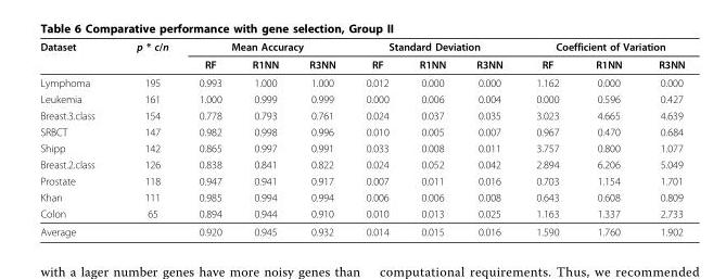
<table><thead><tr><td rowspan="2">Dataset</td><td rowspan="2">p * c/n</td><td colspan="3">Mean Accuracy</td><td colspan="3">Standard Deviation</td><td colspan="3">Coefficient of Variation</td></tr><tr><td>RF</td><td>R1NN</td><td>R3NN</td><td>RF</td><td>R1NN</td><td>R3NN</td><td>RF</td><td>R1NN</td><td>R3NN</td></tr></thead><tbody><tr><td>Lymphoma</td><td>195</td><td>0.993</td><td>1.000</td><td>1.000</td><td>0.012</td><td>0.000</td><td>0.000</td><td>1.162</td><td>0.000</td><td>0.000</td></tr><tr><td>Leukemia</td><td>161</td><td>1.000</td><td>0.999</td><td>0.999</td><td>0.000</td><td>0.006</td><td>0.004</td><td>0.000</td><td>0.596</td><td>0.427</td></tr><tr><td>Breast.3.class</td><td>154</td><td>0.778</td><td>0.793</td><td>0.761</td><td>0.024</td><td>0.037</td><td>0.035</td><td>3.023</td><td>4.665</td><td>4.639</td></tr><tr><td>SRBCT</td><td>147</td><td>0.982</td><td>0.998</td><td>0.996</td><td>0.010</td><td>0.005</td><td>0.007</td><td>0.967</td><td>0.470</td><td>0.684</td></tr><tr><td>Shipp</td><td>142</td><td>0.865</td><td>0.997</td><td>0.991</td><td>0.033</td><td>0.008</td><td>0.011</td><td>3.757</td><td>0.800</td><td>1.077</td></tr><tr><td>Breast.2.class</td><td>126</td><td>0.838</td><td>0.841</td><td>0.822</td><td>0.024</td><td>0.052</td><td>0.042</td><td>2.894</td><td>6.206</td><td>5.049</td></tr><tr><td>Prostate</td><td>118</td><td>0.947</td><td>0.941</td><td>0.917</td><td>0.007</td><td>0.011</td><td>0.016</td><td>0.703</td><td>1.154</td><td>1.701</td></tr><tr><td>Khan</td><td>111</td><td>0.985</td><td>0.994</td><td>0.994</td><td>0.006</td><td>0.006</td><td>0.008</td><td>0.643</td><td>0.608</td><td>0.809</td></tr><tr><td>Colon</td><td>65</td><td>0.894</td><td>0.944</td><td>0.910</td><td>0.010</td><td>0.013</td><td>0.025</td><td>1.163</td><td>1.337</td><td>2.733</td></tr><tr><td>Average</td><td></td><td>0.920</td><td>0.945</td><td>0.932</td><td>0.014</td><td>0.015</td><td>0.016</td><td>1.590</td><td>1.760</td><td>1.902</td></tr></tbody></table>